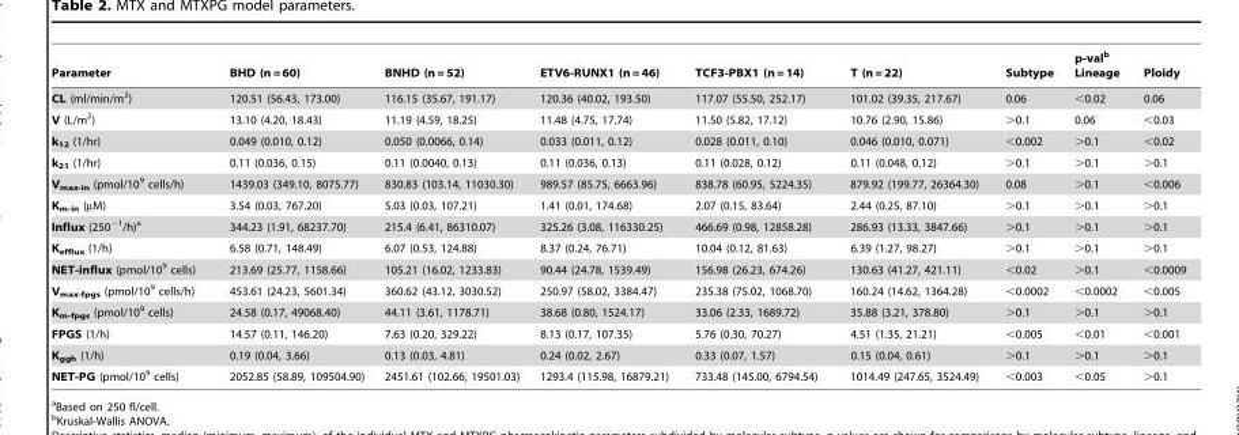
<table><thead><tr><td>Parameter</td><td>BHD (n = 60)</td><td>BNHD (n = 52)</td><td>ETV6-RUNX1 (n = 46)</td><td>TCF3-PBX1 (n = 14)</td><td>T (n = 22)</td><td>Subtype</td><td>p-val<sup>b</sup> Lineage</td><td>Ploidy</td></tr></thead><tbody><tr><td>CL (ml/min/m<sup>2</sup>)</td><td>120.51 (56.43, 173.00)</td><td>116.15 (35.67, 191.17)</td><td>120.36 (40.02, 193.50)</td><td>117.07 (55.50, 252.17)</td><td>101.02 (39.35, 217.67)</td><td>0.06</td><td>&lt;0.02</td><td>0.06</td></tr><tr><td>V (L/m<sup>2</sup>)</td><td>13.10 (4.20, 18.43)</td><td>11.19 (4.59, 18.25)</td><td>11.48 (4.75, 17.74)</td><td>11.50 (5.82, 17.12)</td><td>10.76 (2.90, 15.86)</td><td>&gt;0.1</td><td>0.06</td><td>&lt;0.03</td></tr><tr><td>k<sub>12</sub> (1/hr)</td><td>0.049 (0.010, 0.12)</td><td>0.050 (0.0066, 0.14)</td><td>0.033 (0.011, 0.12)</td><td>0.028 (0.011, 0.10)</td><td>0.046 (0.010, 0.071)</td><td>&lt;0.002</td><td>&gt;0.1</td><td>&lt;0.02</td></tr><tr><td>k<sub>21</sub> (1/hr)</td><td>0.11 (0.036, 0.15)</td><td>0.11 (0.0040, 0.13)</td><td>0.11 (0.036, 0.13)</td><td>0.11 (0.028, 0.12)</td><td>0.11 (0.048, 0.12)</td><td>&gt;0.1</td><td>&gt;0.1</td><td>&gt;0.1</td></tr><tr><td>V<sub>max-in</sub> (pmol/10<sup>9</sup> cells/h)</td><td>1439.03 (349.10, 8075.77)</td><td>830.83 (103.14, 11030.30)</td><td>989.57 (85.75, 6663.96)</td><td>838.78 (60.95, 5224.35)</td><td>879.92 (199.77, 26364.30)</td><td>0.08</td><td>&gt;0.1</td><td>&lt;0.006</td></tr><tr><td>K<sub>m-in</sub> (µM)</td><td>3.54 (0.03, 767.20)</td><td>5.03 (0.03, 107.21)</td><td>1.41 (0.01, 174.68)</td><td>2.07 (0.15, 83.64)</td><td>2.44 (0.25, 87.10)</td><td>&gt;0.1</td><td>&gt;0.1</td><td>&gt;0.1</td></tr><tr><td>Influx (250<sup>−1</sup>/h)<sup>a</sup></td><td>344.23 (1.91, 68237.70)</td><td>215.4 (6.41, 86310.07)</td><td>325.26 (3.08, 116330.25)</td><td>466.69 (0.98, 12858.28)</td><td>286.93 (13.33, 3847.66)</td><td>&gt;0.1</td><td>&gt;0.1</td><td>&gt;0.1</td></tr><tr><td>K<sub>efflux</sub> (1/h)</td><td>6.58 (0.71, 148.49)</td><td>6.07 (0.53, 124.88)</td><td>8.37 (0.24, 76.71)</td><td>10.04 (0.12, 81.63)</td><td>6.39 (1.27, 98.27)</td><td>&gt;0.1</td><td>&gt;0.1</td><td>&gt;0.1</td></tr><tr><td>NET-influx (pmol/10<sup>9</sup> cells)</td><td>213.69 (25.77, 1158.66)</td><td>105.21 (16.02, 1233.83)</td><td>90.44 (24.78, 1539.49)</td><td>156.98 (26.23, 674.26)</td><td>130.63 (41.27, 421.11)</td><td>&lt;0.02</td><td>&gt;0.1</td><td>&lt;0.0009</td></tr><tr><td>V<sub>max-fpgs</sub> (pmol/10<sup>9</sup> cells/h)</td><td>453.61 (24.23, 5601.34)</td><td>360.62 (43.12, 3030.52)</td><td>250.97 (58.02, 3384.47)</td><td>235.38 (75.02, 1068.70)</td><td>160.24 (14.62, 1364.28)</td><td>&lt;0.0002</td><td>&lt;0.0002</td><td>&lt;0.005</td></tr><tr><td>K<sub>m-fpgs</sub> (pmol/10<sup>9</sup> cells)</td><td>24.58 (0.17, 49068.40)</td><td>44.11 (3.61, 1178.71)</td><td>38.68 (0.80, 1524.17)</td><td>33.06 (2.33, 1689.72)</td><td>35.88 (3.21, 378.80)</td><td>&gt;0.1</td><td>&gt;0.1</td><td>&gt;0.1</td></tr><tr><td>FPGS (1/h)</td><td>14.57 (0.11, 146.20)</td><td>7.63 (0.20, 329.22)</td><td>8.13 (0.17, 107.35)</td><td>5.76 (0.30, 70.27)</td><td>4.51 (1.35, 21.21)</td><td>&lt;0.005</td><td>&lt;0.01</td><td>&lt;0.001</td></tr><tr><td>K<sub>ggh</sub> (1/h)</td><td>0.19 (0.04, 3.66)</td><td>0.13 (0.03, 4.81)</td><td>0.24 (0.02, 2.67)</td><td>0.33 (0.07, 1.57)</td><td>0.15 (0.04, 0.61)</td><td>&gt;0.1</td><td>&gt;0.1</td><td>&gt;0.1</td></tr><tr><td>NET-PG (pmol/10<sup>9</sup> cells)</td><td>2052.85 (58.89, 109504.90)</td><td>2451.61 (102.66, 19501.03)</td><td>1293.4 (115.98, 16879.21)</td><td>733.48 (145.00, 6794.54)</td><td>1014.49 (247.65, 3524.49)</td><td>&lt;0.003</td><td>&lt;0.05</td><td>&gt;0.1</td></tr></tbody></table>